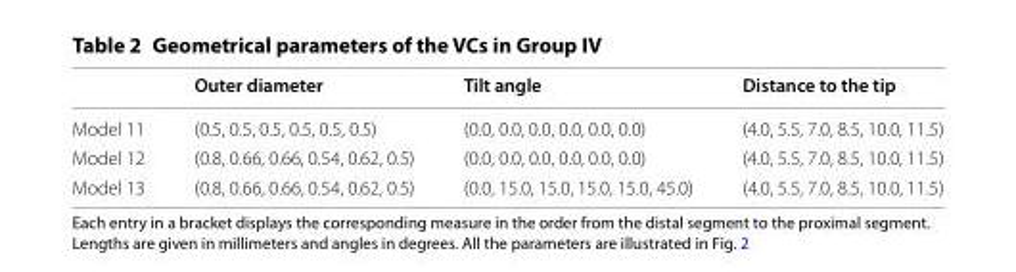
<table><thead><tr><td></td><td>Outer diameter</td><td>Tilt angle</td><td>Distance to the tip</td></tr></thead><tbody><tr><td>Model 11</td><td>(0.5, 0.5, 0.5, 0.5, 0.5, 0.5)</td><td>(0.0, 0.0, 0.0, 0.0, 0.0, 0.0)</td><td>(4.0, 5.5, 7.0, 8.5, 10.0, 11.5)</td></tr><tr><td>Model 12</td><td>(0.8, 0.66, 0.66, 0.54, 0.62, 0.5)</td><td>(0.0, 0.0, 0.0, 0.0, 0.0, 0.0)</td><td>(4.0, 5.5, 7.0, 8.5, 10.0, 11.5)</td></tr><tr><td>Model 13</td><td>(0.8, 0.66, 0.66, 0.54, 0.62, 0.5)</td><td>(0.0, 15.0, 15.0, 15.0, 15.0, 45.0)</td><td>(4.0, 5.5, 7.0, 8.5, 10.0, 11.5)</td></tr></tbody></table>